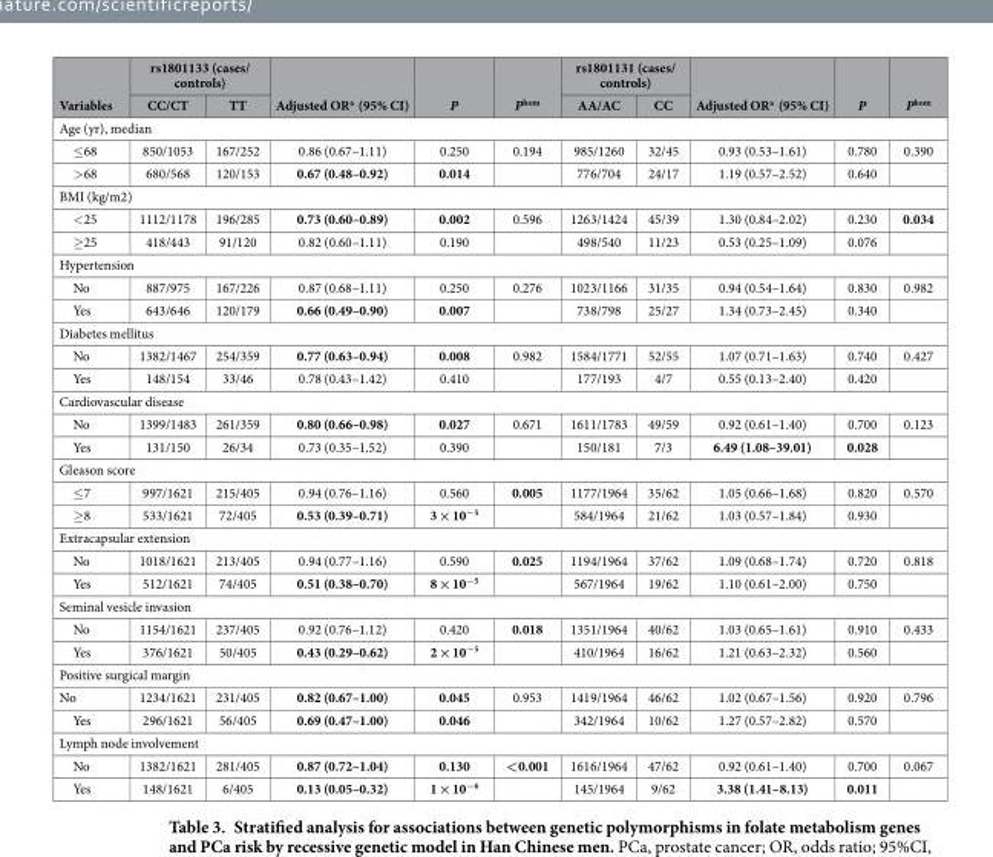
<table><thead><tr><td rowspan="2">Variables</td><td colspan="2">rs1801133 (cases/ controls)</td><td rowspan="2">Adjusted OR<sup>a</sup> (95% CI)</td><td rowspan="2">P</td><td rowspan="2">P<sup>hom</sup></td><td colspan="2">rs1801131 (cases/ controls)</td><td rowspan="2">Adjusted OR<sup>a</sup> (95% CI)</td><td rowspan="2">P</td><td rowspan="2">P<sup>hom</sup></td></tr><tr><td>CC/CT</td><td>TT</td><td>AA/AC</td><td>CC</td></tr></thead><tbody><tr><td colspan="11">Age (yr), median</td></tr><tr><td>≤ 68</td><td>850/1053</td><td>167/252</td><td>0.86 (0.67–1.11)</td><td>0.250</td><td>0.194</td><td>985/1260</td><td>32/45</td><td>0.93 (0.53–1.61)</td><td>0.780</td><td>0.390</td></tr><tr><td>&gt; 68</td><td>680/568</td><td>120/153</td><td>0.67 (0.48–0.92)</td><td>0.014</td><td></td><td>776/704</td><td>24/17</td><td>1.19 (0.57–2.52)</td><td>0.640</td><td></td></tr><tr><td colspan="11">BMI (kg/m2)</td></tr><tr><td>&lt; 25</td><td>1112/1178</td><td>196/285</td><td>0.73 (0.60–0.89)</td><td>0.002</td><td>0.596</td><td>1263/1424</td><td>45/39</td><td>1.30 (0.84–2.02)</td><td>0.230</td><td>0.034</td></tr><tr><td>≥ 25</td><td>418/443</td><td>91/120</td><td>0.82 (0.60–1.11)</td><td>0.190</td><td></td><td>498/540</td><td>11/23</td><td>0.53 (0.25–1.09)</td><td>0.076</td><td></td></tr><tr><td colspan="11">Hypertension</td></tr><tr><td>No</td><td>887/975</td><td>167/226</td><td>0.87 (0.68–1.11)</td><td>0.250</td><td>0.276</td><td>1023/1166</td><td>31/35</td><td>0.94 (0.54–1.64)</td><td>0.830</td><td>0.982</td></tr><tr><td>Yes</td><td>643/646</td><td>120/179</td><td>0.66 (0.49–0.90)</td><td>0.007</td><td></td><td>738/798</td><td>25/27</td><td>1.34 (0.73–2.45)</td><td>0.340</td><td></td></tr><tr><td colspan="11">Diabetes mellitus</td></tr><tr><td>No</td><td>1382/1467</td><td>254/359</td><td>0.77 (0.63–0.94)</td><td>0.008</td><td>0.982</td><td>1584/1771</td><td>52/55</td><td>1.07 (0.71–1.63)</td><td>0.740</td><td>0.427</td></tr><tr><td>Yes</td><td>148/154</td><td>33/46</td><td>0.78 (0.43–1.42)</td><td>0.410</td><td></td><td>177/193</td><td>4/7</td><td>0.55 (0.13–2.40)</td><td>0.420</td><td></td></tr><tr><td colspan="11">Cardiovascular disease</td></tr><tr><td>No</td><td>1399/1483</td><td>261/359</td><td>0.80 (0.66–0.98)</td><td>0.027</td><td>0.671</td><td>1611/1783</td><td>49/59</td><td>0.92 (0.61–1.40)</td><td>0.700</td><td>0.123</td></tr><tr><td>Yes</td><td>131/150</td><td>26/34</td><td>0.73 (0.35–1.52)</td><td>0.390</td><td></td><td>150/181</td><td>7/3</td><td>6.49 (1.08–39.01)</td><td>0.028</td><td></td></tr><tr><td colspan="11">Gleason score</td></tr><tr><td>≤ 7</td><td>997/1621</td><td>215/405</td><td>0.94 (0.76–1.16)</td><td>0.560</td><td>0.005</td><td>1177/1964</td><td>35/62</td><td>1.05 (0.66–1.68)</td><td>0.820</td><td>0.570</td></tr><tr><td>≥ 8</td><td>533/1621</td><td>72/405</td><td>0.53 (0.39–0.71)</td><td>3 × 10<sup>−5</sup></td><td></td><td>584/1964</td><td>21/62</td><td>1.03 (0.57–1.84)</td><td>0.930</td><td></td></tr><tr><td colspan="11">Extracapsular extension</td></tr><tr><td>No</td><td>1018/1621</td><td>213/405</td><td>0.94 (0.77–1.16)</td><td>0.590</td><td>0.025</td><td>1194/1964</td><td>37/62</td><td>1.09 (0.68–1.74)</td><td>0.720</td><td>0.818</td></tr><tr><td>Yes</td><td>512/1621</td><td>74/405</td><td>0.51 (0.38–0.70)</td><td>8 × 10<sup>−5</sup></td><td></td><td>567/1964</td><td>19/62</td><td>1.10 (0.61–2.00)</td><td>0.750</td><td></td></tr><tr><td colspan="11">Seminal vesicle invasion</td></tr><tr><td>No</td><td>1154/1621</td><td>237/405</td><td>0.92 (0.76–1.12)</td><td>0.420</td><td>0.018</td><td>1351/1964</td><td>40/62</td><td>1.03 (0.65–1.61)</td><td>0.910</td><td>0.433</td></tr><tr><td>Yes</td><td>376/1621</td><td>50/405</td><td>0.43 (0.29–0.62)</td><td>2 × 10<sup>−5</sup></td><td></td><td>410/1964</td><td>16/62</td><td>1.21 (0.63–2.32)</td><td>0.560</td><td></td></tr><tr><td colspan="11">Positive surgical margin</td></tr><tr><td>No</td><td>1234/1621</td><td>231/405</td><td>0.82 (0.67–1.00)</td><td>0.045</td><td>0.953</td><td>1419/1964</td><td>46/62</td><td>1.02 (0.67–1.56)</td><td>0.920</td><td>0.796</td></tr><tr><td>Yes</td><td>296/1621</td><td>56/405</td><td>0.69 (0.47–1.00)</td><td>0.046</td><td></td><td>342/1964</td><td>10/62</td><td>1.27 (0.57–2.82)</td><td>0.570</td><td></td></tr><tr><td colspan="11">Lymph node involvement</td></tr><tr><td>No</td><td>1382/1621</td><td>281/405</td><td>0.87 (0.72–1.04)</td><td>0.130</td><td>&lt;0.001</td><td>1616/1964</td><td>47/62</td><td>0.92 (0.61–1.40)</td><td>0.700</td><td>0.067</td></tr><tr><td>Yes</td><td>148/1621</td><td>6/405</td><td>0.13 (0.05–0.32)</td><td>1 × 10<sup>−6</sup></td><td></td><td>145/1964</td><td>9/62</td><td>3.38 (1.41–8.13)</td><td>0.011</td><td></td></tr></tbody></table>